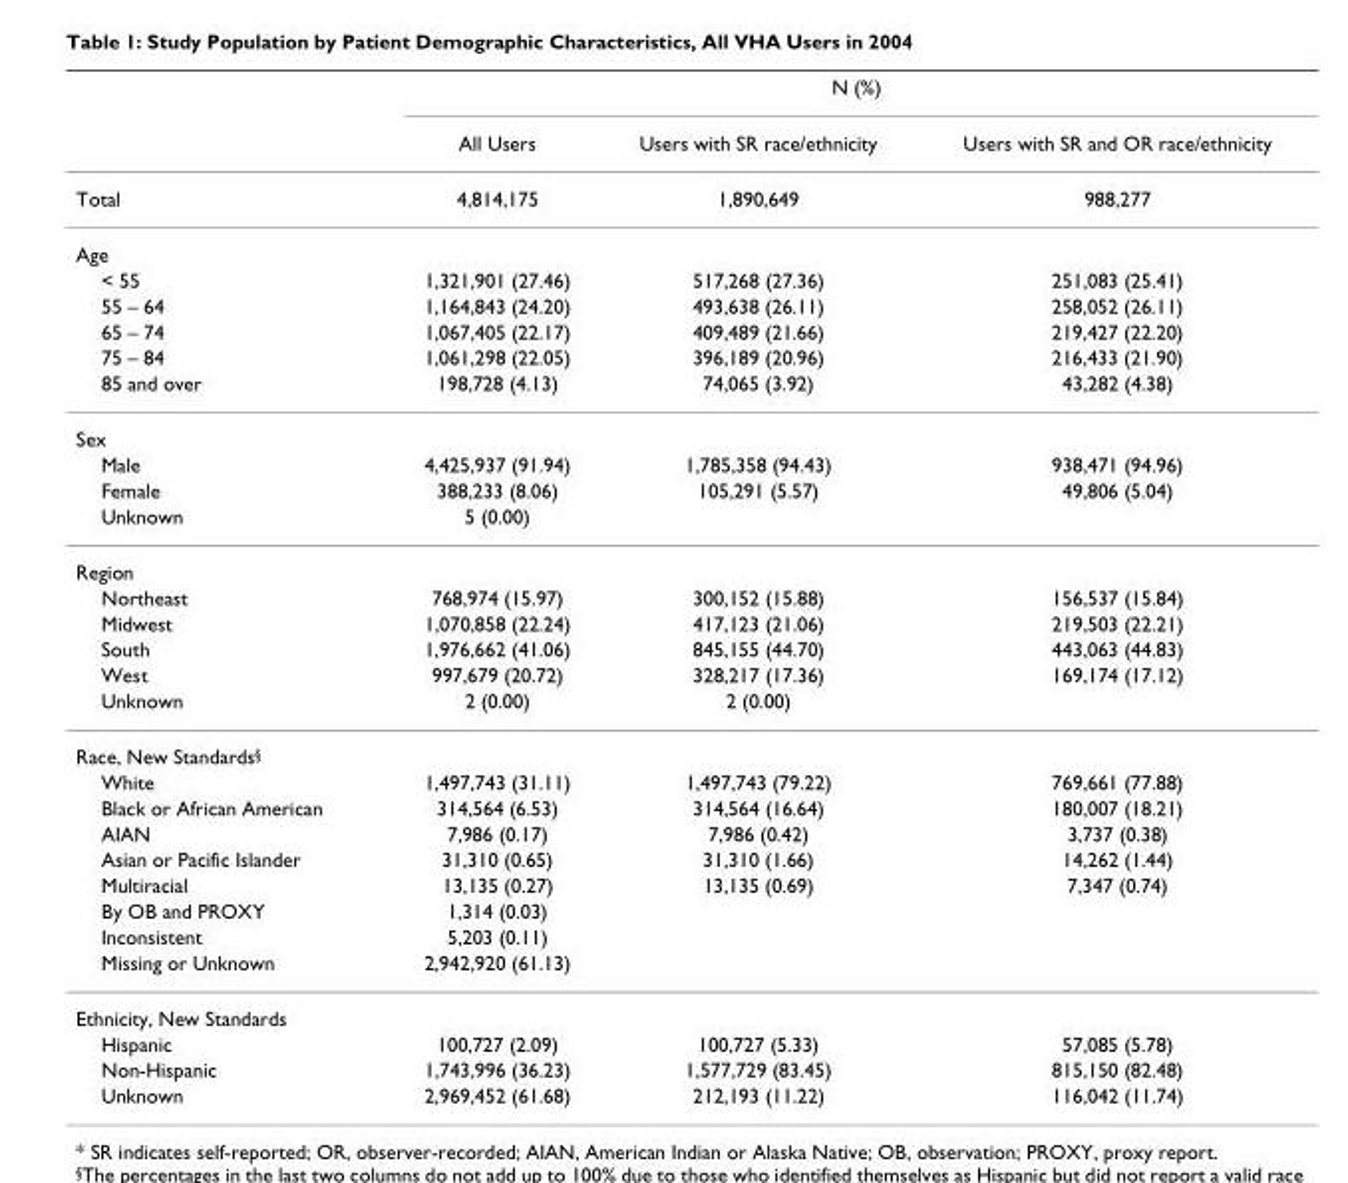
<table><thead><tr><td rowspan="2"></td><td colspan="3">N (%)</td></tr><tr><td>All Users</td><td>Users with SR race/ethnicity</td><td>Users with SR and OR race/ethnicity</td></tr></thead><tbody><tr><td>Total</td><td>4,814,175</td><td>1,890,649</td><td>988,277</td></tr><tr><td colspan="4">Age</td></tr><tr><td>&lt; 55</td><td>1,321,901 (27.46)</td><td>517,268 (27.36)</td><td>251,083 (25.41)</td></tr><tr><td>55 – 64</td><td>1,164,843 (24.20)</td><td>493,638 (26.11)</td><td>258,052 (26.11)</td></tr><tr><td>65 – 74</td><td>1,067,405 (22.17)</td><td>409,489 (21.66)</td><td>219,427 (22.20)</td></tr><tr><td>75 – 84</td><td>1,061,298 (22.05)</td><td>396,189 (20.96)</td><td>216,433 (21.90)</td></tr><tr><td>85 and over</td><td>198,728 (4.13)</td><td>74,065 (3.92)</td><td>43,282 (4.38)</td></tr><tr><td colspan="4">Sex</td></tr><tr><td>Male</td><td>4,425,937 (91.94)</td><td>1,785,358 (94.43)</td><td>938,471 (94.96)</td></tr><tr><td>Female</td><td>388,233 (8.06)</td><td>105,291 (5.57)</td><td>49,806 (5.04)</td></tr><tr><td>Unknown</td><td>5 (0.00)</td><td></td><td></td></tr><tr><td colspan="4">Region</td></tr><tr><td>Northeast</td><td>768,974 (15.97)</td><td>300,152 (15.88)</td><td>156,537 (15.84)</td></tr><tr><td>Midwest</td><td>1,070,858 (22.24)</td><td>417,123 (21.06)</td><td>219,503 (22.21)</td></tr><tr><td>South</td><td>1,976,662 (41.06)</td><td>845,155 (44.70)</td><td>443,063 (44.83)</td></tr><tr><td>West</td><td>997,679 (20.72)</td><td>328,217 (17.36)</td><td>169,174 (17.12)</td></tr><tr><td>Unknown</td><td>2 (0.00)</td><td>2 (0.00)</td><td></td></tr><tr><td colspan="4">Race, New Standards<sup>§</sup></td></tr><tr><td>White</td><td>1,497,743 (31.11)</td><td>1,497,743 (79.22)</td><td>769,661 (77.88)</td></tr><tr><td>Black or African American</td><td>314,564 (6.53)</td><td>314,564 (16.64)</td><td>180,007 (18.21)</td></tr><tr><td>AIAN</td><td>7,986 (0.17)</td><td>7,986 (0.42)</td><td>3,737 (0.38)</td></tr><tr><td>Asian or Pacific Islander</td><td>31,310 (0.65)</td><td>31,310 (1.66)</td><td>14,262 (1.44)</td></tr><tr><td>Multiracial</td><td>13,135 (0.27)</td><td>13,135 (0.69)</td><td>7,347 (0.74)</td></tr><tr><td>By OB and PROXY</td><td>1,314 (0.03)</td><td></td><td></td></tr><tr><td>Inconsistent</td><td>5,203 (0.11)</td><td></td><td></td></tr><tr><td>Missing or Unknown</td><td>2,942,920 (61.13)</td><td></td><td></td></tr><tr><td colspan="4">Ethnicity, New Standards</td></tr><tr><td>Hispanic</td><td>100,727 (2.09)</td><td>100,727 (5.33)</td><td>57,085 (5.78)</td></tr><tr><td>Non-Hispanic</td><td>1,743,996 (36.23)</td><td>1,577,729 (83.45)</td><td>815,150 (82.48)</td></tr><tr><td>Unknown</td><td>2,969,452 (61.68)</td><td>212,193 (11.22)</td><td>116,042 (11.74)</td></tr></tbody></table>